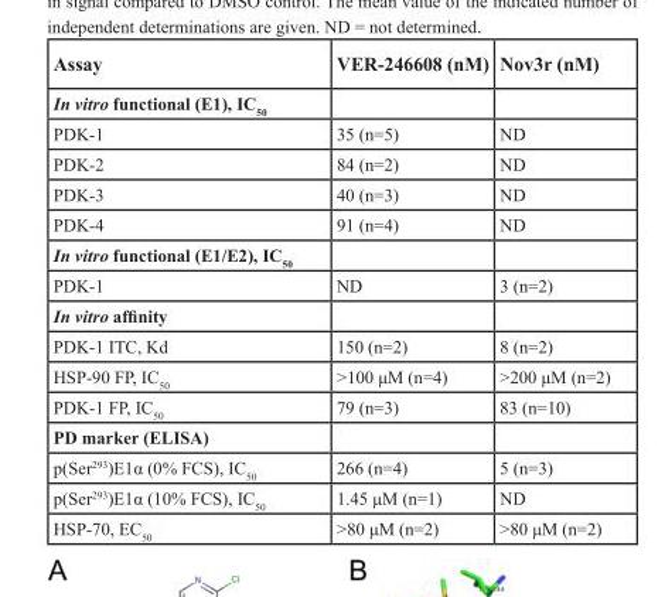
<table><thead><tr><td>Assay</td><td>VER-246608 (nM)</td><td>Nov3r (nM)</td></tr></thead><tbody><tr><td colspan="3">In vitro functional (E1), IC<sub>50</sub></td></tr><tr><td>PDK-1</td><td>35 (n=5)</td><td>ND</td></tr><tr><td>PDK-2</td><td>84 (n=2)</td><td>ND</td></tr><tr><td>PDK-3</td><td>40 (n=3)</td><td>ND</td></tr><tr><td>PDK-4</td><td>91 (n=4)</td><td>ND</td></tr><tr><td colspan="3">In vitro functional (E1/E2), IC<sub>50</sub></td></tr><tr><td>PDK-1</td><td>ND</td><td>3 (n=2)</td></tr><tr><td colspan="3">In vitro affinity</td></tr><tr><td>PDK-1 ITC, Kd</td><td>150 (n=2)</td><td>8 (n=2)</td></tr><tr><td>HSP-90 FP, IC<sub>50</sub></td><td>&gt;100 μM (n=4)</td><td>&gt;200 μM (n=2)</td></tr><tr><td>PDK-1 FP, IC<sub>50</sub></td><td>79 (n=3)</td><td>83 (n=10)</td></tr><tr><td colspan="3">PD marker (ELISA)</td></tr><tr><td>p(Ser<sup>293</sup>)E1α (0% FCS), IC<sub>50</sub></td><td>266 (n=4)</td><td>5 (n=3)</td></tr><tr><td>p(Ser<sup>293</sup>)E1α (10% FCS), IC<sub>50</sub></td><td>1.45 μM (n=1)</td><td>ND</td></tr><tr><td>HSP-70, EC<sub>50</sub></td><td>&gt;80 μM (n=2)</td><td>&gt;80 μM (n=2)</td></tr></tbody></table>